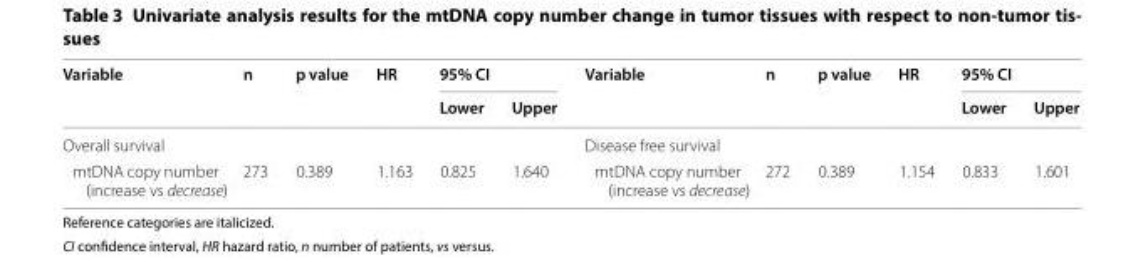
<table><thead><tr><td rowspan="2">Variable</td><td rowspan="2">n</td><td rowspan="2">p value</td><td rowspan="2">HR</td><td colspan="2">95% CI</td><td rowspan="2">Variable</td><td rowspan="2">n</td><td rowspan="2">p value</td><td rowspan="2">HR</td><td colspan="2">95% CI</td></tr><tr><td>Lower</td><td>Upper</td><td>Lower</td><td>Upper</td></tr></thead><tbody><tr><td colspan="6">Overall survival</td><td colspan="6">Disease free survival</td></tr><tr><td>mtDNA copy number (increase vs decrease)</td><td>273</td><td>0.389</td><td>1.163</td><td>0.825</td><td>1.640</td><td>mtDNA copy number (increase vs decrease)</td><td>272</td><td>0.389</td><td>1.154</td><td>0.833</td><td>1.601</td></tr></tbody></table>